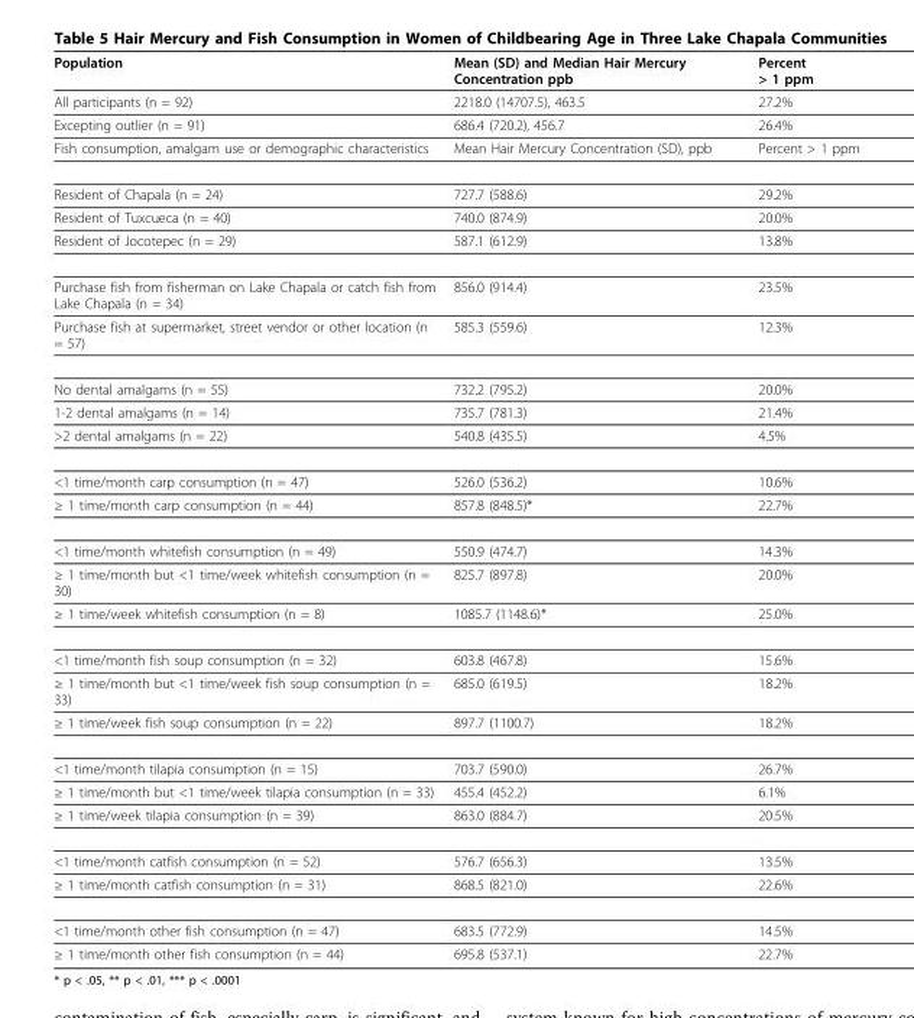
<table><thead><tr><td>Population</td><td>Mean (SD) and Median Hair Mercury Concentration ppb</td><td>Percent &gt; 1 ppm</td></tr></thead><tbody><tr><td>All participants (n = 92)</td><td>2218.0 (14707.5), 463.5</td><td>27.2%</td></tr><tr><td>Excepting outlier (n = 91)</td><td>686.4 (720.2), 456.7</td><td>26.4%</td></tr><tr><td>Fish consumption, amalgam use or demographic characteristics</td><td>Mean Hair Mercury Concentration (SD), ppb</td><td>Percent &gt; 1 ppm</td></tr><tr><td>Resident of Chapala (n = 24)</td><td>727.7 (588.6)</td><td>29.2%</td></tr><tr><td>Resident of Tuxcueca (n = 40)</td><td>740.0 (874.9)</td><td>20.0%</td></tr><tr><td>Resident of Jocotepec (n = 29)</td><td>587.1 (612.9)</td><td>13.8%</td></tr><tr><td>Purchase fish from fisherman on Lake Chapala or catch fish from Lake Chapala (n = 34)</td><td>856.0 (914.4)</td><td>23.5%</td></tr><tr><td>Purchase fish at supermarket, street vendor or other location (n = 57)</td><td>585.3 (559.6)</td><td>12.3%</td></tr><tr><td>No dental amalgams (n = 55)</td><td>732.2 (795.2)</td><td>20.0%</td></tr><tr><td>1-2 dental amalgams (n = 14)</td><td>735.7 (781.3)</td><td>21.4%</td></tr><tr><td>&gt;2 dental amalgams (n = 22)</td><td>540.8 (435.5)</td><td>4.5%</td></tr><tr><td>&lt;1 time/month carp consumption (n = 47)</td><td>526.0 (536.2)</td><td>10.6%</td></tr><tr><td>≥ 1 time/month carp consumption (n = 44)</td><td>857.8 (848.5)*</td><td>22.7%</td></tr><tr><td>&lt;1 time/month whitefish consumption (n = 49)</td><td>550.9 (474.7)</td><td>14.3%</td></tr><tr><td>≥ 1 time/month but &lt;1 time/week whitefish consumption (n = 30)</td><td>825.7 (897.8)</td><td>20.0%</td></tr><tr><td>≥ 1 time/week whitefish consumption (n = 8)</td><td>1085.7 (1148.6)*</td><td>25.0%</td></tr><tr><td>&lt;1 time/month fish soup consumption (n = 32)</td><td>603.8 (467.8)</td><td>15.6%</td></tr><tr><td>≥ 1 time/month but &lt;1 time/week fish soup consumption (n = 33)</td><td>685.0 (619.5)</td><td>18.2%</td></tr><tr><td>≥ 1 time/week fish soup consumption (n = 22)</td><td>897.7 (1100.7)</td><td>18.2%</td></tr><tr><td>&lt;1 time/month tilapia consumption (n = 15)</td><td>703.7 (590.0)</td><td>26.7%</td></tr><tr><td>≥ 1 time/month but &lt;1 time/week tilapia consumption (n = 33)</td><td>455.4 (452.2)</td><td>6.1%</td></tr><tr><td>≥ 1 time/week tilapia consumption (n = 39)</td><td>863.0 (884.7)</td><td>20.5%</td></tr><tr><td>&lt;1 time/month catfish consumption (n = 52)</td><td>576.7 (656.3)</td><td>13.5%</td></tr><tr><td>≥ 1 time/month catfish consumption (n = 31)</td><td>868.5 (821.0)</td><td>22.6%</td></tr><tr><td>&lt;1 time/month other fish consumption (n = 47)</td><td>683.5 (772.9)</td><td>14.5%</td></tr><tr><td>≥ 1 time/month other fish consumption (n = 44)</td><td>695.8 (537.1)</td><td>22.7%</td></tr></tbody></table>